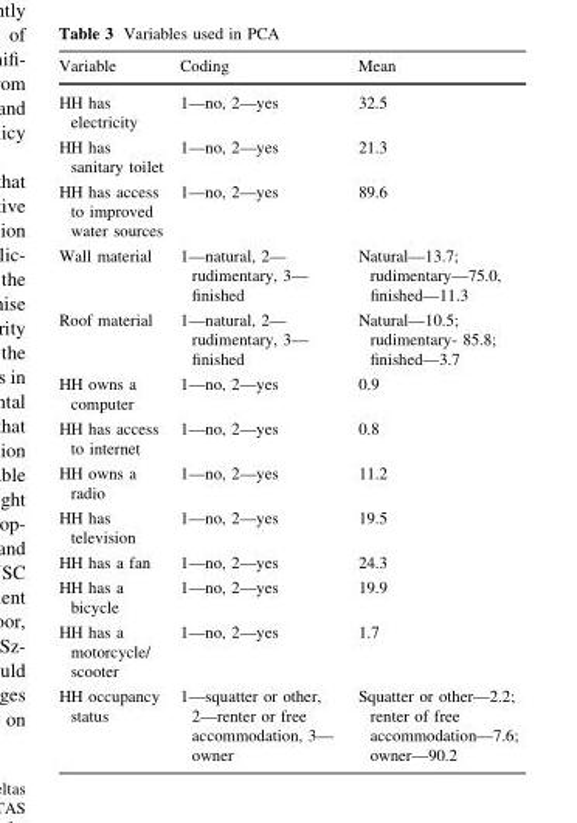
<table><thead><tr><td>Variable</td><td>Coding</td><td>Mean</td></tr></thead><tbody><tr><td>HH has electricity</td><td>1—no, 2—yes</td><td>32.5</td></tr><tr><td>HH has sanitary toilet</td><td>1—no, 2—yes</td><td>21.3</td></tr><tr><td>HH has access to improved water sources</td><td>1—no, 2—yes</td><td>89.6</td></tr><tr><td>Wall material</td><td>1—natural, 2— rudimentary, 3— finished</td><td>Natural—13.7; rudimentary—75.0, finished—11.3</td></tr><tr><td>Roof material</td><td>1—natural, 2— rudimentary, 3— finished</td><td>Natural—10.5; rudimentary- 85.8; finished—3.7</td></tr><tr><td>HH owns a computer</td><td>1—no, 2—yes</td><td>0.9</td></tr><tr><td>HH has access to internet</td><td>1—no, 2—yes</td><td>0.8</td></tr><tr><td>HH owns a radio</td><td>1—no, 2—yes</td><td>11.2</td></tr><tr><td>HH has television</td><td>1—no, 2—yes</td><td>19.5</td></tr><tr><td>HH has a fan</td><td>1—no, 2—yes</td><td>24.3</td></tr><tr><td>HH has a bicycle</td><td>1—no, 2—yes</td><td>19.9</td></tr><tr><td>HH has a motorcycle/ scooter</td><td>1—no, 2—yes</td><td>1.7</td></tr><tr><td>HH occupancy status</td><td>1—squatter or other, 2—renter or free accommodation, 3— owner</td><td>Squatter or other—2.2; renter of free accommodation—7.6; owner—90.2</td></tr></tbody></table>